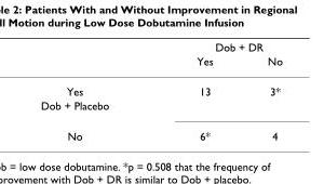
<table><thead><tr><td rowspan="2"></td><td colspan="2">Dob + DR</td></tr><tr><td>Yes</td><td>No</td></tr></thead><tbody><tr><td>Yes</td><td>13</td><td>3*</td></tr><tr><td colspan="3">Dob + Placebo</td></tr><tr><td>No</td><td>6*</td><td>4</td></tr></tbody></table>